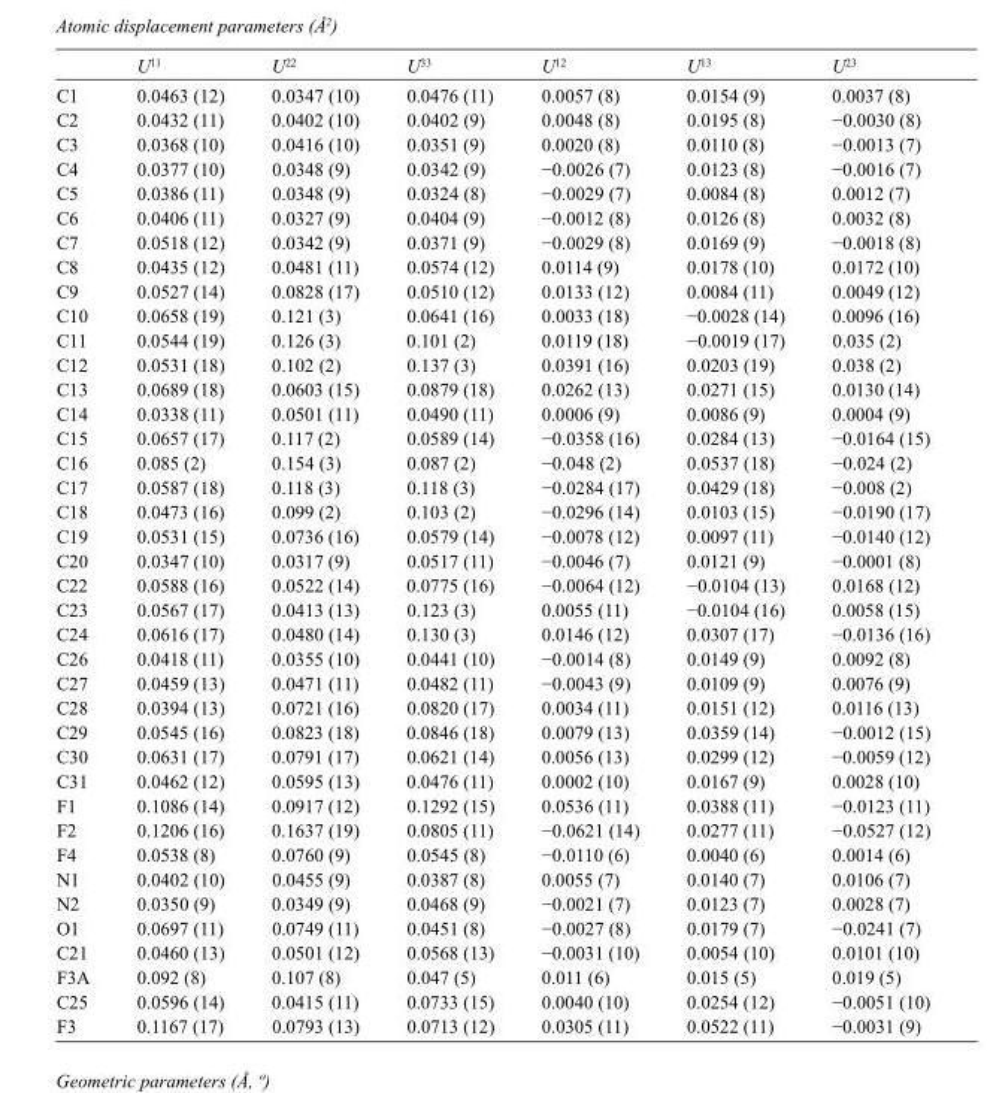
<table><thead><tr><td></td><td>U<sup>11</sup></td><td>U<sup>22</sup></td><td>U<sup>33</sup></td><td>U<sup>12</sup></td><td>U<sup>13</sup></td><td>U<sup>23</sup></td></tr></thead><tbody><tr><td>C1</td><td>0.0463 (12)</td><td>0.0347 (10)</td><td>0.0476 (11)</td><td>0.0057 (8)</td><td>0.0154 (9)</td><td>0.0037 (8)</td></tr><tr><td>C2</td><td>0.0432 (11)</td><td>0.0402 (10)</td><td>0.0402 (9)</td><td>0.0048 (8)</td><td>0.0195 (8)</td><td>−0.0030 (8)</td></tr><tr><td>C3</td><td>0.0368 (10)</td><td>0.0416 (10)</td><td>0.0351 (9)</td><td>0.0020 (8)</td><td>0.0110 (8)</td><td>−0.0013 (7)</td></tr><tr><td>C4</td><td>0.0377 (10)</td><td>0.0348 (9)</td><td>0.0342 (9)</td><td>−0.0026 (7)</td><td>0.0123 (8)</td><td>−0.0016 (7)</td></tr><tr><td>C5</td><td>0.0386 (11)</td><td>0.0348 (9)</td><td>0.0324 (8)</td><td>−0.0029 (7)</td><td>0.0084 (8)</td><td>0.0012 (7)</td></tr><tr><td>C6</td><td>0.0406 (11)</td><td>0.0327 (9)</td><td>0.0404 (9)</td><td>−0.0012 (8)</td><td>0.0126 (8)</td><td>0.0032 (8)</td></tr><tr><td>C7</td><td>0.0518 (12)</td><td>0.0342 (9)</td><td>0.0371 (9)</td><td>−0.0029 (8)</td><td>0.0169 (9)</td><td>−0.0018 (8)</td></tr><tr><td>C8</td><td>0.0435 (12)</td><td>0.0481 (11)</td><td>0.0574 (12)</td><td>0.0114 (9)</td><td>0.0178 (10)</td><td>0.0172 (10)</td></tr><tr><td>C9</td><td>0.0527 (14)</td><td>0.0828 (17)</td><td>0.0510 (12)</td><td>0.0133 (12)</td><td>0.0084 (11)</td><td>0.0049 (12)</td></tr><tr><td>C10</td><td>0.0658 (19)</td><td>0.121 (3)</td><td>0.0641 (16)</td><td>0.0033 (18)</td><td>−0.0028 (14)</td><td>0.0096 (16)</td></tr><tr><td>C11</td><td>0.0544 (19)</td><td>0.126 (3)</td><td>0.101 (2)</td><td>0.0119 (18)</td><td>−0.0019 (17)</td><td>0.035 (2)</td></tr><tr><td>C12</td><td>0.0531 (18)</td><td>0.102 (2)</td><td>0.137 (3)</td><td>0.0391 (16)</td><td>0.0203 (19)</td><td>0.038 (2)</td></tr><tr><td>C13</td><td>0.0689 (18)</td><td>0.0603 (15)</td><td>0.0879 (18)</td><td>0.0262 (13)</td><td>0.0271 (15)</td><td>0.0130 (14)</td></tr><tr><td>C14</td><td>0.0338 (11)</td><td>0.0501 (11)</td><td>0.0490 (11)</td><td>0.0006 (9)</td><td>0.0086 (9)</td><td>0.0004 (9)</td></tr><tr><td>C15</td><td>0.0657 (17)</td><td>0.117 (2)</td><td>0.0589 (14)</td><td>−0.0358 (16)</td><td>0.0284 (13)</td><td>−0.0164 (15)</td></tr><tr><td>C16</td><td>0.085 (2)</td><td>0.154 (3)</td><td>0.087 (2)</td><td>−0.048 (2)</td><td>0.0537 (18)</td><td>−0.024 (2)</td></tr><tr><td>C17</td><td>0.0587 (18)</td><td>0.118 (3)</td><td>0.118 (3)</td><td>−0.0284 (17)</td><td>0.0429 (18)</td><td>−0.008 (2)</td></tr><tr><td>C18</td><td>0.0473 (16)</td><td>0.099 (2)</td><td>0.103 (2)</td><td>−0.0296 (14)</td><td>0.0103 (15)</td><td>−0.0190 (17)</td></tr><tr><td>C19</td><td>0.0531 (15)</td><td>0.0736 (16)</td><td>0.0579 (14)</td><td>−0.0078 (12)</td><td>0.0097 (11)</td><td>−0.0140 (12)</td></tr><tr><td>C20</td><td>0.0347 (10)</td><td>0.0317 (9)</td><td>0.0517 (11)</td><td>−0.0046 (7)</td><td>0.0121 (9)</td><td>−0.0001 (8)</td></tr><tr><td>C22</td><td>0.0588 (16)</td><td>0.0522 (14)</td><td>0.0775 (16)</td><td>−0.0064 (12)</td><td>−0.0104 (13)</td><td>0.0168 (12)</td></tr><tr><td>C23</td><td>0.0567 (17)</td><td>0.0413 (13)</td><td>0.123 (3)</td><td>0.0055 (11)</td><td>−0.0104 (16)</td><td>0.0058 (15)</td></tr><tr><td>C24</td><td>0.0616 (17)</td><td>0.0480 (14)</td><td>0.130 (3)</td><td>0.0146 (12)</td><td>0.0307 (17)</td><td>−0.0136 (16)</td></tr><tr><td>C26</td><td>0.0418 (11)</td><td>0.0355 (10)</td><td>0.0441 (10)</td><td>−0.0014 (8)</td><td>0.0149 (9)</td><td>0.0092 (8)</td></tr><tr><td>C27</td><td>0.0459 (13)</td><td>0.0471 (11)</td><td>0.0482 (11)</td><td>−0.0043 (9)</td><td>0.0109 (9)</td><td>0.0076 (9)</td></tr><tr><td>C28</td><td>0.0394 (13)</td><td>0.0721 (16)</td><td>0.0820 (17)</td><td>0.0034 (11)</td><td>0.0151 (12)</td><td>0.0116 (13)</td></tr><tr><td>C29</td><td>0.0545 (16)</td><td>0.0823 (18)</td><td>0.0846 (18)</td><td>0.0079 (13)</td><td>0.0359 (14)</td><td>−0.0012 (15)</td></tr><tr><td>C30</td><td>0.0631 (17)</td><td>0.0791 (17)</td><td>0.0621 (14)</td><td>0.0056 (13)</td><td>0.0299 (12)</td><td>−0.0059 (12)</td></tr><tr><td>C31</td><td>0.0462 (12)</td><td>0.0595 (13)</td><td>0.0476 (11)</td><td>0.0002 (10)</td><td>0.0167 (9)</td><td>0.0028 (10)</td></tr><tr><td>F1</td><td>0.1086 (14)</td><td>0.0917 (12)</td><td>0.1292 (15)</td><td>0.0536 (11)</td><td>0.0388 (11)</td><td>−0.0123 (11)</td></tr><tr><td>F2</td><td>0.1206 (16)</td><td>0.1637 (19)</td><td>0.0805 (11)</td><td>−0.0621 (14)</td><td>0.0277 (11)</td><td>−0.0527 (12)</td></tr><tr><td>F4</td><td>0.0538 (8)</td><td>0.0760 (9)</td><td>0.0545 (8)</td><td>−0.0110 (6)</td><td>0.0040 (6)</td><td>0.0014 (6)</td></tr><tr><td>N1</td><td>0.0402 (10)</td><td>0.0455 (9)</td><td>0.0387 (8)</td><td>0.0055 (7)</td><td>0.0140 (7)</td><td>0.0106 (7)</td></tr><tr><td>N2</td><td>0.0350 (9)</td><td>0.0349 (9)</td><td>0.0468 (9)</td><td>−0.0021 (7)</td><td>0.0123 (7)</td><td>0.0028 (7)</td></tr><tr><td>O1</td><td>0.0697 (11)</td><td>0.0749 (11)</td><td>0.0451 (8)</td><td>−0.0027 (8)</td><td>0.0179 (7)</td><td>−0.0241 (7)</td></tr><tr><td>C21</td><td>0.0460 (13)</td><td>0.0501 (12)</td><td>0.0568 (13)</td><td>−0.0031 (10)</td><td>0.0054 (10)</td><td>0.0101 (10)</td></tr><tr><td>F3A</td><td>0.092 (8)</td><td>0.107 (8)</td><td>0.047 (5)</td><td>0.011 (6)</td><td>0.015 (5)</td><td>0.019 (5)</td></tr><tr><td>C25</td><td>0.0596 (14)</td><td>0.0415 (11)</td><td>0.0733 (15)</td><td>0.0040 (10)</td><td>0.0254 (12)</td><td>−0.0051 (10)</td></tr><tr><td>F3</td><td>0.1167 (17)</td><td>0.0793 (13)</td><td>0.0713 (12)</td><td>0.0305 (11)</td><td>0.0522 (11)</td><td>−0.0031 (9)</td></tr></tbody></table>